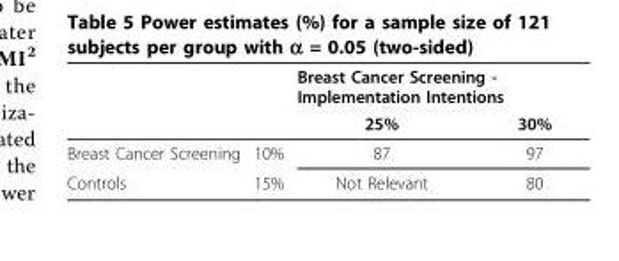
<table><thead><tr><td rowspan="2"></td><td rowspan="2"></td><td colspan="2">Breast Cancer Screening - Implementation Intentions</td></tr><tr><td>25%</td><td>30%</td></tr></thead><tbody><tr><td>Breast Cancer Screening</td><td>10%</td><td>87</td><td>97</td></tr><tr><td>Controls</td><td>15%</td><td>Not Relevant</td><td>80</td></tr></tbody></table>